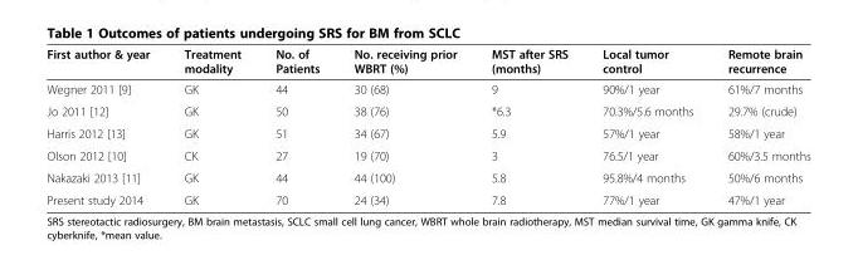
<table><thead><tr><td>First author &amp; year</td><td>Treatment modality</td><td>No. of Patients</td><td>No. receiving prior WBRT (%)</td><td>MST after SRS (months)</td><td>Local tumor control</td><td>Remote brain recurrence</td></tr></thead><tbody><tr><td>Wegner 2011 [9]</td><td>GK</td><td>44</td><td>30 (68)</td><td>9</td><td>90%/1 year</td><td>61%/7 months</td></tr><tr><td>Jo 2011 [12]</td><td>GK</td><td>50</td><td>38 (76)</td><td>*6.3</td><td>70.3%/5.6 months</td><td>29.7% (crude)</td></tr><tr><td>Harris 2012 [13]</td><td>GK</td><td>51</td><td>34 (67)</td><td>5.9</td><td>57%/1 year</td><td>58%/1 year</td></tr><tr><td>Olson 2012 [10]</td><td>CK</td><td>27</td><td>19 (70)</td><td>3</td><td>76.5/1 year</td><td>60%/3.5 months</td></tr><tr><td>Nakazaki 2013 [11]</td><td>GK</td><td>44</td><td>44 (100)</td><td>5.8</td><td>95.8%/4 months</td><td>50%/6 months</td></tr><tr><td>Present study 2014</td><td>GK</td><td>70</td><td>24 (34)</td><td>7.8</td><td>77%/1 year</td><td>47%/1 year</td></tr></tbody></table>